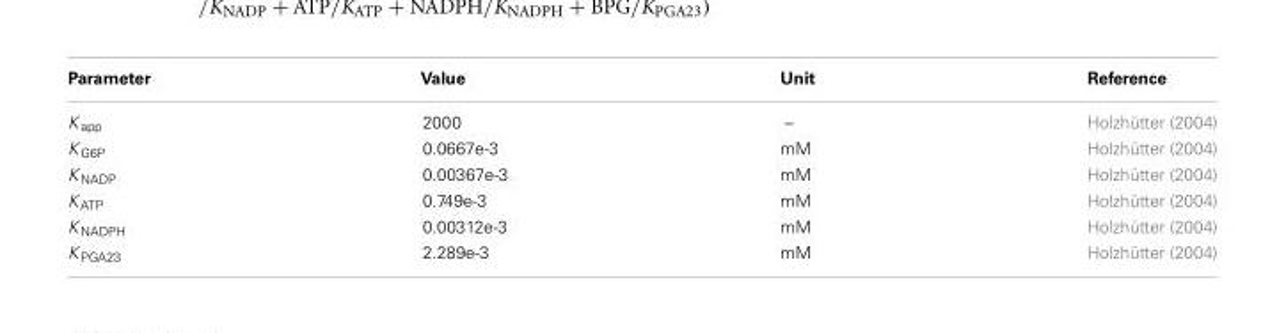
<table><thead><tr><td>Parameter</td><td>Value</td><td>Unit</td><td>Reference</td></tr></thead><tbody><tr><td>K <sub>app</sub></td><td>2000</td><td>–</td><td>Holzhütter (2004)</td></tr><tr><td>K <sub>G6P</sub></td><td>0.0667e-3</td><td>mM</td><td>Holzhütter (2004)</td></tr><tr><td>K <sub>NADP</sub></td><td>0.00367e-3</td><td>mM</td><td>Holzhütter (2004)</td></tr><tr><td>K <sub>ATP</sub></td><td>0.749e-3</td><td>mM</td><td>Holzhütter (2004)</td></tr><tr><td>K <sub>NADPH</sub></td><td>0.00312e-3</td><td>mM</td><td>Holzhütter (2004)</td></tr><tr><td>K <sub>PGA23</sub></td><td>2.289e-3</td><td>mM</td><td>Holzhütter (2004)</td></tr></tbody></table>